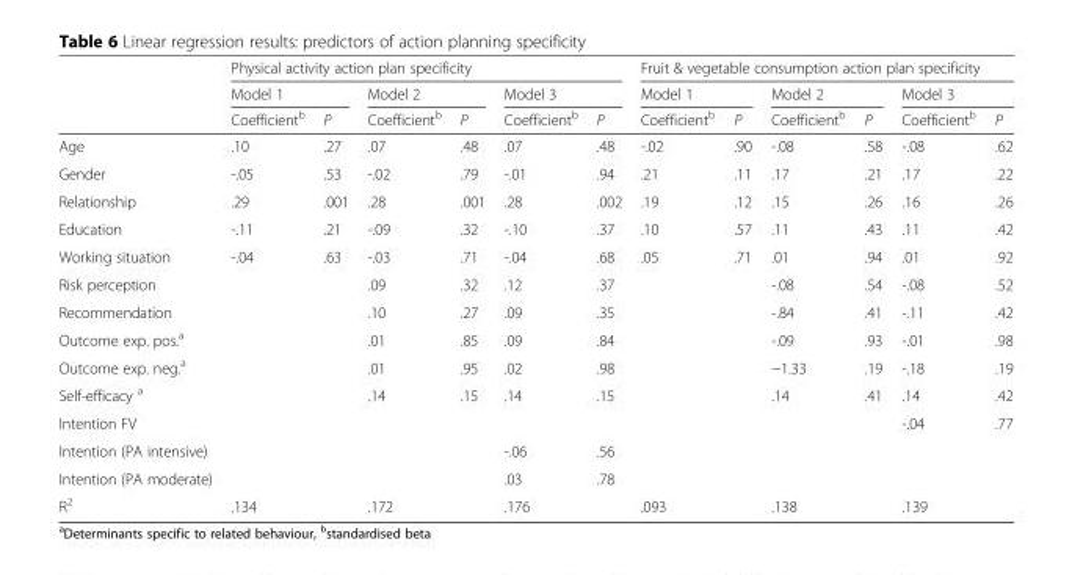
<table><thead><tr><td rowspan="3"></td><td colspan="6">Physical activity action plan specificity</td><td colspan="6">Fruit &amp; vegetable consumption action plan specificity</td></tr><tr><td colspan="2">Model 1</td><td colspan="2">Model 2</td><td colspan="2">Model 3</td><td colspan="2">Model 1</td><td colspan="2">Model 2</td><td colspan="2">Model 3</td></tr><tr><td>Coefficient<sup>b</sup></td><td>P</td><td>Coefficient<sup>b</sup></td><td>P</td><td>Coefficient<sup>b</sup></td><td>P</td><td>Coefficient<sup>b</sup></td><td>P</td><td>Coefficient<sup>b</sup></td><td>P</td><td>Coefficient<sup>b</sup></td><td>P</td></tr></thead><tbody><tr><td>Age</td><td>.10</td><td>.27</td><td>.07</td><td>.48</td><td>.07</td><td>.48</td><td>-.02</td><td>.90</td><td>-.08</td><td>.58</td><td>-.08</td><td>.62</td></tr><tr><td>Gender</td><td>-.05</td><td>.53</td><td>-.02</td><td>.79</td><td>-.01</td><td>.94</td><td>.21</td><td>.11</td><td>.17</td><td>.21</td><td>.17</td><td>.22</td></tr><tr><td>Relationship</td><td>.29</td><td>.001</td><td>.28</td><td>.001</td><td>.28</td><td>.002</td><td>.19</td><td>.12</td><td>.15</td><td>.26</td><td>.16</td><td>.26</td></tr><tr><td>Education</td><td>-.11</td><td>.21</td><td>-.09</td><td>.32</td><td>-.10</td><td>.37</td><td>.10</td><td>.57</td><td>.11</td><td>.43</td><td>.11</td><td>.42</td></tr><tr><td>Working situation</td><td>-.04</td><td>.63</td><td>-.03</td><td>.71</td><td>-.04</td><td>.68</td><td>.05</td><td>.71</td><td>.01</td><td>.94</td><td>.01</td><td>.92</td></tr><tr><td>Risk perception</td><td></td><td></td><td>.09</td><td>.32</td><td>.12</td><td>.37</td><td></td><td></td><td>-.08</td><td>.54</td><td>-.08</td><td>.52</td></tr><tr><td>Recommendation</td><td></td><td></td><td>.10</td><td>.27</td><td>.09</td><td>.35</td><td></td><td></td><td>-.84</td><td>.41</td><td>-.11</td><td>.42</td></tr><tr><td>Outcome exp. pos.<sup>a</sup></td><td></td><td></td><td>.01</td><td>.85</td><td>.09</td><td>.84</td><td></td><td></td><td>-.09</td><td>.93</td><td>-.01</td><td>.98</td></tr><tr><td>Outcome exp. neg.<sup>a</sup></td><td></td><td></td><td>.01</td><td>.95</td><td>.02</td><td>.98</td><td></td><td></td><td>−1.33</td><td>.19</td><td>-.18</td><td>.19</td></tr><tr><td>Self-efficacy <sup>a</sup></td><td></td><td></td><td>.14</td><td>.15</td><td>.14</td><td>.15</td><td></td><td></td><td>.14</td><td>.41</td><td>.14</td><td>.42</td></tr><tr><td>Intention FV</td><td></td><td></td><td></td><td></td><td></td><td></td><td></td><td></td><td></td><td></td><td>-.04</td><td>.77</td></tr><tr><td>Intention (PA intensive)</td><td></td><td></td><td></td><td></td><td>-.06</td><td>.56</td><td></td><td></td><td></td><td></td><td></td><td></td></tr><tr><td>Intention (PA moderate)</td><td></td><td></td><td></td><td></td><td>.03</td><td>.78</td><td></td><td></td><td></td><td></td><td></td><td></td></tr><tr><td>R<sup>2</sup></td><td>.134</td><td></td><td>.172</td><td></td><td>.176</td><td></td><td>.093</td><td></td><td>.138</td><td></td><td>.139</td><td></td></tr></tbody></table>